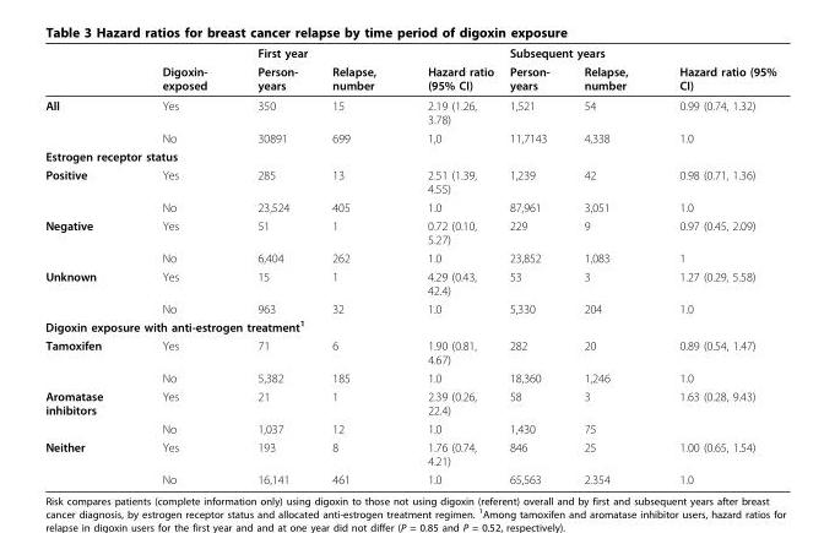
<table><thead><tr><td rowspan="2"></td><td rowspan="2">Digoxin- exposed</td><td colspan="3">First year</td><td colspan="3">Subsequent years</td></tr><tr><td>Person- years</td><td>Relapse, number</td><td>Hazard ratio (95% CI)</td><td>Person- years</td><td>Relapse, number</td><td>Hazard ratio (95% CI)</td></tr></thead><tbody><tr><td rowspan="2">All</td><td>Yes</td><td>350</td><td>15</td><td>2.19 (1.26, 3.78)</td><td>1,521</td><td>54</td><td>0.99 (0.74, 1.32)</td></tr><tr><td>No</td><td>30891</td><td>699</td><td>1,0</td><td>11,7143</td><td>4,338</td><td>1.0</td></tr><tr><td colspan="8">Estrogen receptor status</td></tr><tr><td rowspan="2">Positive</td><td>Yes</td><td>285</td><td>13</td><td>2.51 (1.39, 4.55)</td><td>1,239</td><td>42</td><td>0.98 (0.71, 1.36)</td></tr><tr><td>No</td><td>23,524</td><td>405</td><td>1.0</td><td>87,961</td><td>3,051</td><td>1.0</td></tr><tr><td rowspan="2">Negative</td><td>Yes</td><td>51</td><td>1</td><td>0.72 (0.10, 5.27)</td><td>229</td><td>9</td><td>0.97 (0.45, 2.09)</td></tr><tr><td>No</td><td>6,404</td><td>262</td><td>1.0</td><td>23,852</td><td>1,083</td><td>1</td></tr><tr><td rowspan="2">Unknown</td><td>Yes</td><td>15</td><td>1</td><td>4.29 (0.43, 42.4)</td><td>53</td><td>3</td><td>1.27 (0.29, 5.58)</td></tr><tr><td>No</td><td>963</td><td>32</td><td>1.0</td><td>5,330</td><td>204</td><td>1.0</td></tr><tr><td colspan="8">Digoxin exposure with anti-estrogen treatment<sup>1</sup></td></tr><tr><td rowspan="2">Tamoxifen</td><td>Yes</td><td>71</td><td>6</td><td>1.90 (0.81, 4.67)</td><td>282</td><td>20</td><td>0.89 (0.54, 1.47)</td></tr><tr><td>No</td><td>5,382</td><td>185</td><td>1.0</td><td>18,360</td><td>1,246</td><td>1.0</td></tr><tr><td rowspan="2">Aromatase inhibitors</td><td>Yes</td><td>21</td><td>1</td><td>2.39 (0.26, 22.4)</td><td>58</td><td>3</td><td>1.63 (0.28, 9.43)</td></tr><tr><td>No</td><td>1,037</td><td>12</td><td>1.0</td><td>1,430</td><td>75</td><td></td></tr><tr><td rowspan="2">Neither</td><td>Yes</td><td>193</td><td>8</td><td>1.76 (0.74, 4.21)</td><td>846</td><td>25</td><td>1.00 (0.65, 1.54)</td></tr><tr><td>No</td><td>16,141</td><td>461</td><td>1.0</td><td>65,563</td><td>2.354</td><td>1.0</td></tr></tbody></table>